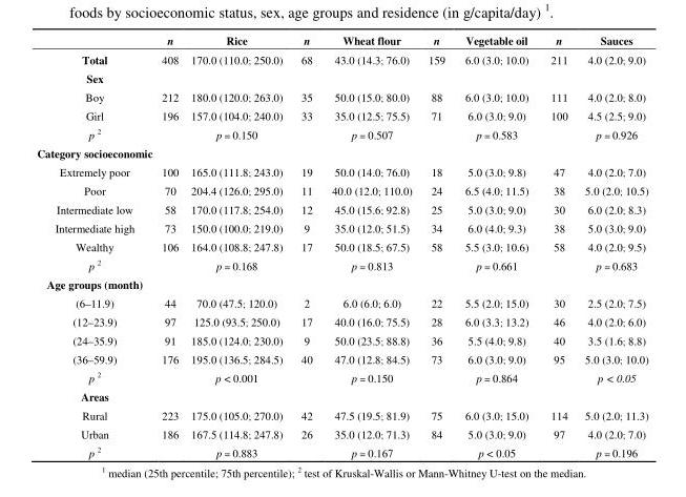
<table><thead><tr><td></td><td>n</td><td>Rice</td><td>n</td><td>Wheat flour</td><td>n</td><td>Vegetable oil</td><td>n</td><td>Sauces</td></tr></thead><tbody><tr><td>Total</td><td>408</td><td>170.0 (110.0; 250.0)</td><td>68</td><td>43.0 (14.3; 76.0)</td><td>159</td><td>6.0 (3.0; 10.0)</td><td>211</td><td>4.0 (2.0; 9.0)</td></tr><tr><td colspan="9">Sex</td></tr><tr><td>Boy</td><td>212</td><td>180.0 (120.0; 263.0)</td><td>35</td><td>50.0 (15.0; 80.0)</td><td>88</td><td>6.0 (3.0; 10.0)</td><td>111</td><td>4.0 (2.0; 8.0)</td></tr><tr><td>Girl</td><td>196</td><td>157.0 (104.0; 240.0)</td><td>33</td><td>35.0 (12.5; 75.5)</td><td>71</td><td>6.0 (3.0; 9.0)</td><td>100</td><td>4.5 (2.5; 9.0)</td></tr><tr><td>p <sup>2</sup></td><td></td><td>p = 0.150</td><td></td><td>p = 0.507</td><td></td><td>p = 0.583</td><td></td><td>p = 0.926</td></tr><tr><td colspan="9">Category socioeconomic</td></tr><tr><td>Extremely poor</td><td>100</td><td>165.0 (111.8; 243.0)</td><td>19</td><td>50.0 (14.0; 76.0)</td><td>18</td><td>5.0 (3.0; 9.8)</td><td>47</td><td>4.0 (2.0; 7.0)</td></tr><tr><td>Poor</td><td>70</td><td>204.4 (126.0; 295.0)</td><td>11</td><td>40.0 (12.0; 110.0)</td><td>24</td><td>6.5 (4.0; 11.5)</td><td>38</td><td>5.0 (2.0; 10.5)</td></tr><tr><td>Intermediate low</td><td>58</td><td>170.0 (117.8; 254.0)</td><td>12</td><td>45.0 (15.6; 92.8)</td><td>25</td><td>5.0 (3.0; 9.0)</td><td>30</td><td>6.0 (2.0; 8.3)</td></tr><tr><td>Intermediate high</td><td>73</td><td>150.0 (100.0; 219.0)</td><td>9</td><td>35.0 (12.0; 51.5)</td><td>34</td><td>6.0 (4.0; 9.3)</td><td>38</td><td>5.0 (3.0; 9.0)</td></tr><tr><td>Wealthy</td><td>106</td><td>164.0 (108.8; 247.8)</td><td>17</td><td>50.0 (18.5; 67.5)</td><td>58</td><td>5.5 (3.0; 10.6)</td><td>58</td><td>4.0 (2.0; 9.5)</td></tr><tr><td>p <sup>2</sup></td><td></td><td>p = 0.168</td><td></td><td>p = 0.813</td><td></td><td>p = 0.661</td><td></td><td>p = 0.683</td></tr><tr><td colspan="9">Age groups (month)</td></tr><tr><td>(6–11.9)</td><td>44</td><td>70.0 (47.5; 120.0)</td><td>2</td><td>6.0 (6.0; 6.0)</td><td>22</td><td>5.5 (2.0; 15.0)</td><td>30</td><td>2.5 (2.0; 7.5)</td></tr><tr><td>(12–23.9)</td><td>97</td><td>125.0 (93.5; 250.0)</td><td>17</td><td>40.0 (16.0; 75.5)</td><td>28</td><td>6.0 (3.3; 13.2)</td><td>46</td><td>4.0 (2.0; 6.0)</td></tr><tr><td>(24–35.9)</td><td>91</td><td>185.0 (124.0; 230.0)</td><td>9</td><td>50.0 (23.5; 88.8)</td><td>36</td><td>5.5 (4.0; 9.8)</td><td>40</td><td>3.5 (1.6; 8.8)</td></tr><tr><td>(36–59.9)</td><td>176</td><td>195.0 (136.5; 284.5)</td><td>40</td><td>47.0 (12.8; 84.5)</td><td>73</td><td>6.0 (3.0; 9.0)</td><td>95</td><td>5.0 (3.0; 10.0)</td></tr><tr><td>p <sup>2</sup></td><td></td><td>p &lt; 0.001</td><td></td><td>p = 0.150</td><td></td><td>p = 0.864</td><td></td><td>p &lt; 0.05</td></tr><tr><td colspan="9">Areas</td></tr><tr><td>Rural</td><td>223</td><td>175.0 (105.0; 270.0)</td><td>42</td><td>47.5 (19.5; 81.9)</td><td>75</td><td>6.0 (3.0; 15.0)</td><td>114</td><td>5.0 (2.0; 11.3)</td></tr><tr><td>Urban</td><td>186</td><td>167.5 (114.8; 247.8)</td><td>26</td><td>35.0 (12.0; 71.3)</td><td>84</td><td>5.0 (3.0; 9.0)</td><td>97</td><td>4.0 (2.0; 7.0)</td></tr><tr><td>p <sup>2</sup></td><td></td><td>p = 0.883</td><td></td><td>p = 0.167</td><td></td><td>p &lt; 0.05</td><td></td><td>p = 0.196</td></tr></tbody></table>